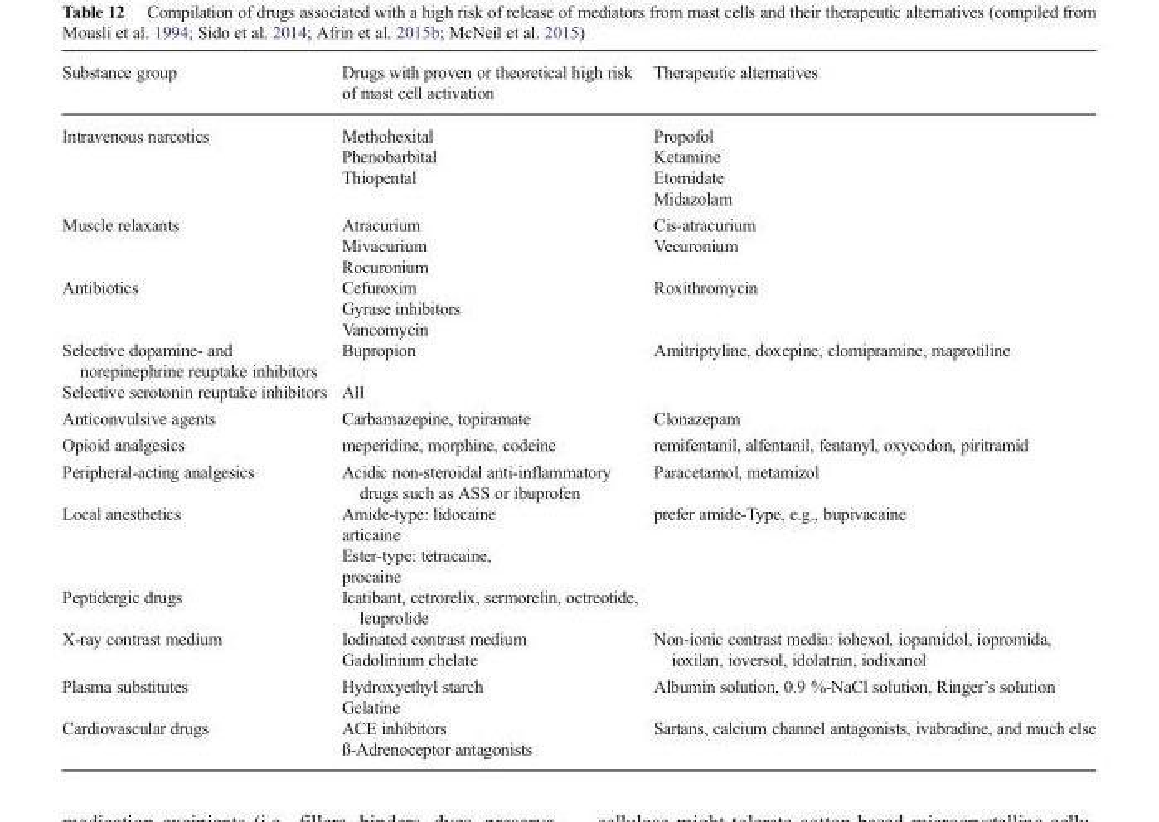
<table><thead><tr><td>Substance group</td><td>Drugs with proven or theoretical high risk of mast cell activation</td><td>Therapeutic alternatives</td></tr></thead><tbody><tr><td>Intravenous narcotics</td><td>Methohexital Phenobarbital Thiopental</td><td>Propofol Ketamine Etomidate Midazolam</td></tr><tr><td>Muscle relaxants</td><td>Atracurium Mivacurium Rocuronium</td><td>Cis-atracurium Vecuronium</td></tr><tr><td>Antibiotics</td><td>Cefuroxim Gyrase inhibitors Vancomycin</td><td>Roxithromycin</td></tr><tr><td>Selective dopamine- and norepinephrine reuptake inhibitors</td><td>Bupropion</td><td rowspan="2">Amitriptyline, doxepine, clomipramine, maprotiline</td></tr><tr><td>Selective serotonin reuptake inhibitors</td><td>All</td></tr><tr><td>Anticonvulsive agents</td><td>Carbamazepine, topiramate</td><td>Clonazepam</td></tr><tr><td>Opioid analgesics</td><td>meperidine, morphine, codeine</td><td>remifentanil, alfentanil, fentanyl, oxycodon, piritramid</td></tr><tr><td>Peripheral-acting analgesics</td><td>Acidic non-steroidal anti-inflammatory drugs such as ASS or ibuprofen</td><td>Paracetamol, metamizol</td></tr><tr><td>Local anesthetics</td><td>Amide-type: lidocaine articaine Ester-type: tetracaine, procaine</td><td>prefer amide-Type, e.g., bupivacaine</td></tr><tr><td>Peptidergic drugs</td><td>Icatibant, cetrorelix, sermorelin, octreotide, leuprolide</td><td></td></tr><tr><td>X-ray contrast medium</td><td>Iodinated contrast medium Gadolinium chelate</td><td>Non-ionic contrast media: iohexol, iopamidol, iopromida, ioxilan, ioversol, idolatran, iodixanol</td></tr><tr><td>Plasma substitutes</td><td>Hydroxyethyl starch Gelatine</td><td>Albumin solution, 0.9 %-NaCl solution, Ringer’s solution</td></tr><tr><td>Cardiovascular drugs</td><td>ACE inhibitors ß-Adrenoceptor antagonists</td><td>Sartans, calcium channel antagonists, ivabradine, and much else</td></tr></tbody></table>